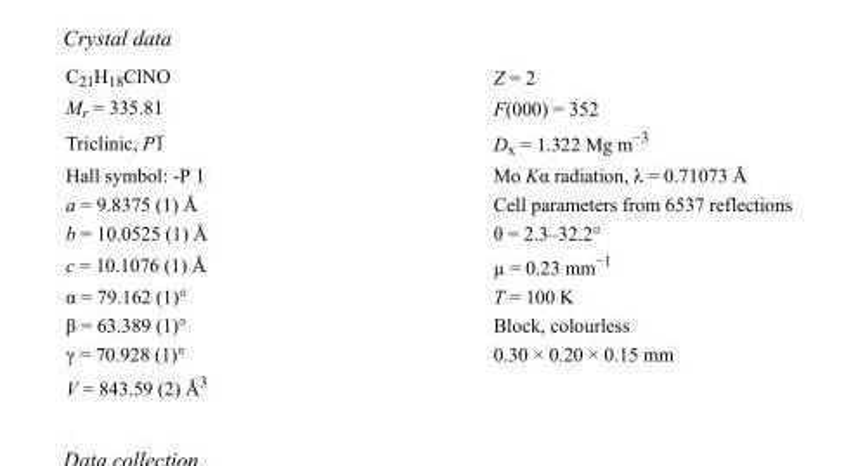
<table><tbody><tr><td>C<sub>21</sub>H<sub>18</sub>ClNO</td><td>Z = 2</td></tr><tr><td>M<sub>r</sub> = 335.81</td><td>F(000) = 352</td></tr><tr><td>Triclinic, P1</td><td>D<sub>x</sub> = 1.322 Mg m<sup>−3</sup></td></tr><tr><td>Hall symbol: -P 1</td><td>Mo Kα radiation, λ = 0.71073 Å</td></tr><tr><td>a = 9.8375 (1) Å</td><td>Cell parameters from 6537 reflections</td></tr><tr><td>b = 10.0525 (1) Å</td><td>θ = 2.3–32.2°</td></tr><tr><td>c = 10.1076 (1) Å</td><td>µ = 0.23 mm<sup>−1</sup></td></tr><tr><td>α = 79.162 (1)°</td><td>T = 100 K</td></tr><tr><td>β = 63.389 (1)°</td><td>Block, colourless</td></tr><tr><td>γ = 70.928 (1)°</td><td>0.30 × 0.20 × 0.15 mm</td></tr><tr><td>V = 843.59 (2) Å<sup>3</sup></td><td></td></tr></tbody></table>